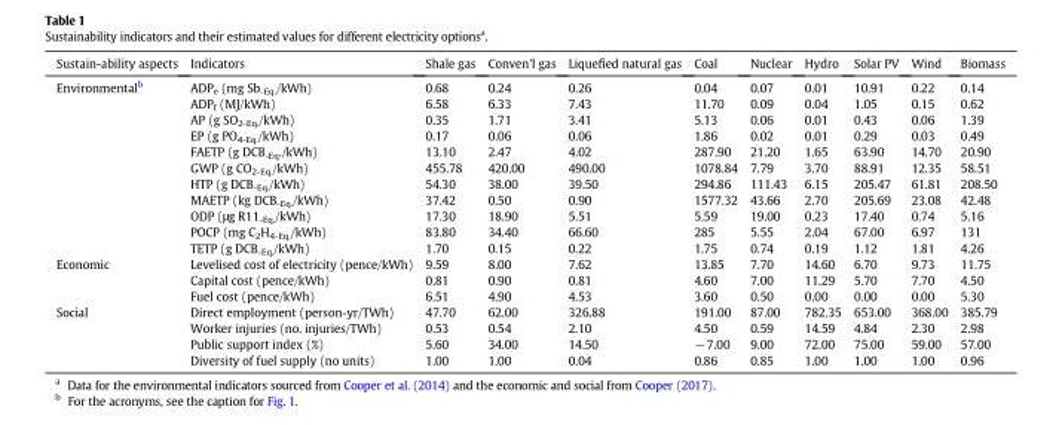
<table><thead><tr><td>Sustain-ability aspects</td><td>Indicators</td><td>Shale gas</td><td>Conven&#x27;l gas</td><td>Liquefied natural gas</td><td>Coal</td><td>Nuclear</td><td>Hydro</td><td>Solar PV</td><td>Wind</td><td>Biomass</td></tr></thead><tbody><tr><td rowspan="11">Environmental<sup>b</sup></td><td>ADP<sub>e</sub> (mg Sb<sub>-Eq.</sub>/kWh)</td><td>0.68</td><td>0.24</td><td>0.26</td><td>0.04</td><td>0.07</td><td>0.01</td><td>10.91</td><td>0.22</td><td>0.14</td></tr><tr><td>ADP<sub>f</sub> (MJ/kWh)</td><td>6.58</td><td>6.33</td><td>7.43</td><td>11.70</td><td>0.09</td><td>0.04</td><td>1.05</td><td>0.15</td><td>0.62</td></tr><tr><td>AP (g SO<sub>2-Eq.</sub>/kWh)</td><td>0.35</td><td>1.71</td><td>3.41</td><td>5.13</td><td>0.06</td><td>0.01</td><td>0.43</td><td>0.06</td><td>1.39</td></tr><tr><td>EP (g PO<sub>4-Eq.</sub>/kWh)</td><td>0.17</td><td>0.06</td><td>0.06</td><td>1.86</td><td>0.02</td><td>0.01</td><td>0.29</td><td>0.03</td><td>0.49</td></tr><tr><td>FAETP (g DCB<sub>-Eq</sub>./kWh)</td><td>13.10</td><td>2.47</td><td>4.02</td><td>287.90</td><td>21.20</td><td>1.65</td><td>63.90</td><td>14.70</td><td>20.90</td></tr><tr><td>GWP (g CO<sub>2-Eq.</sub>/kWh)</td><td>455.78</td><td>420.00</td><td>490.00</td><td>1078.84</td><td>7.79</td><td>3.70</td><td>88.91</td><td>12.35</td><td>58.51</td></tr><tr><td>HTP (g DCB<sub>-Eq.</sub>/kWh)</td><td>54.30</td><td>38.00</td><td>39.50</td><td>294.86</td><td>111.43</td><td>6.15</td><td>205.47</td><td>61.81</td><td>208.50</td></tr><tr><td>MAETP (kg DCB<sub>-Eq.</sub>/kWh)</td><td>37.42</td><td>0.50</td><td>0.90</td><td>1577.32</td><td>43.66</td><td>2.70</td><td>205.69</td><td>23.08</td><td>42.48</td></tr><tr><td>ODP (μg R11<sub>-Eq.</sub>/kWh)</td><td>17.30</td><td>18.90</td><td>5.51</td><td>5.59</td><td>19.00</td><td>0.23</td><td>17.40</td><td>0.74</td><td>5.16</td></tr><tr><td>POCP (mg C<sub>2</sub>H<sub>4-Eq.</sub>/kWh)</td><td>83.80</td><td>34.40</td><td>66.60</td><td>285</td><td>5.55</td><td>2.04</td><td>67.00</td><td>6.97</td><td>131</td></tr><tr><td>TETP (g DCB<sub>-Eq.</sub>/kWh)</td><td>1.70</td><td>0.15</td><td>0.22</td><td>1.75</td><td>0.74</td><td>0.19</td><td>1.12</td><td>1.81</td><td>4.26</td></tr><tr><td rowspan="3">Economic</td><td>Levelised cost of electricity (pence/kWh)</td><td>9.59</td><td>8.00</td><td>7.62</td><td>13.85</td><td>7.70</td><td>14.60</td><td>6.70</td><td>9.73</td><td>11.75</td></tr><tr><td>Capital cost (pence/kWh)</td><td>0.81</td><td>0.90</td><td>0.81</td><td>4.60</td><td>7.00</td><td>11.29</td><td>5.70</td><td>7.70</td><td>4.50</td></tr><tr><td>Fuel cost (pence/kWh)</td><td>6.51</td><td>4.90</td><td>4.53</td><td>3.60</td><td>0.50</td><td>0.00</td><td>0.00</td><td>0.00</td><td>5.30</td></tr><tr><td rowspan="4">Social</td><td>Direct employment (person-yr/TWh)</td><td>47.70</td><td>62.00</td><td>326.88</td><td>191.00</td><td>87.00</td><td>782.35</td><td>653.00</td><td>368.00</td><td>385.79</td></tr><tr><td>Worker injuries (no. injuries/TWh)</td><td>0.53</td><td>0.54</td><td>2.10</td><td>4.50</td><td>0.59</td><td>14.59</td><td>4.84</td><td>2.30</td><td>2.98</td></tr><tr><td>Public support index (%)</td><td>5.60</td><td>34.00</td><td>14.50</td><td>−7.00</td><td>9.00</td><td>72.00</td><td>75.00</td><td>59.00</td><td>57.00</td></tr><tr><td>Diversity of fuel supply (no units)</td><td>1.00</td><td>1.00</td><td>0.04</td><td>0.86</td><td>0.85</td><td>1.00</td><td>1.00</td><td>1.00</td><td>0.96</td></tr></tbody></table>